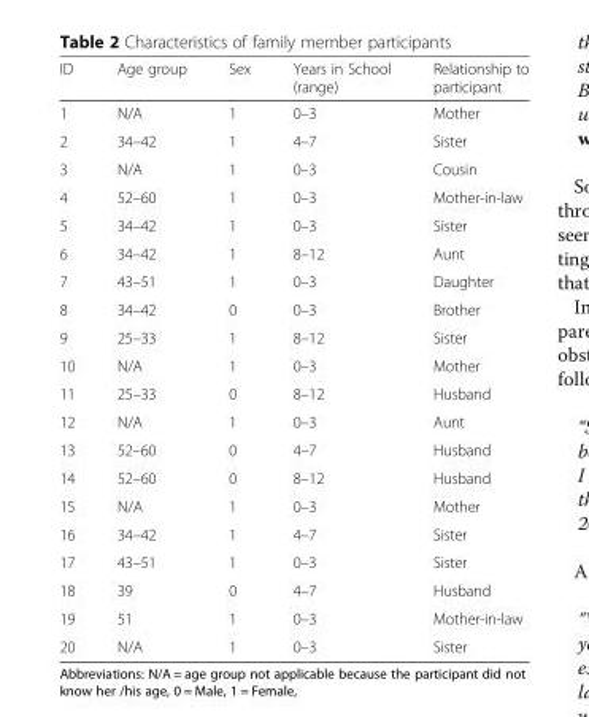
<table><thead><tr><td>ID</td><td>Age group</td><td>Sex</td><td>Years in School (range)</td><td>Relationship to participant</td></tr></thead><tbody><tr><td>1</td><td>N/A</td><td>1</td><td>0–3</td><td>Mother</td></tr><tr><td>2</td><td>34–42</td><td>1</td><td>4–7</td><td>Sister</td></tr><tr><td>3</td><td>N/A</td><td>1</td><td>0–3</td><td>Cousin</td></tr><tr><td>4</td><td>52–60</td><td>1</td><td>0–3</td><td>Mother-in-law</td></tr><tr><td>5</td><td>34–42</td><td>1</td><td>0–3</td><td>Sister</td></tr><tr><td>6</td><td>34–42</td><td>1</td><td>8–12</td><td>Aunt</td></tr><tr><td>7</td><td>43–51</td><td>1</td><td>0–3</td><td>Daughter</td></tr><tr><td>8</td><td>34–42</td><td>0</td><td>0–3</td><td>Brother</td></tr><tr><td>9</td><td>25–33</td><td>1</td><td>8–12</td><td>Sister</td></tr><tr><td>10</td><td>N/A</td><td>1</td><td>0–3</td><td>Mother</td></tr><tr><td>11</td><td>25–33</td><td>0</td><td>8–12</td><td>Husband</td></tr><tr><td>12</td><td>N/A</td><td>1</td><td>0–3</td><td>Aunt</td></tr><tr><td>13</td><td>52–60</td><td>0</td><td>4–7</td><td>Husband</td></tr><tr><td>14</td><td>52–60</td><td>0</td><td>8–12</td><td>Husband</td></tr><tr><td>15</td><td>N/A</td><td>1</td><td>0–3</td><td>Mother</td></tr><tr><td>16</td><td>34–42</td><td>1</td><td>4–7</td><td>Sister</td></tr><tr><td>17</td><td>43–51</td><td>1</td><td>0–3</td><td>Sister</td></tr><tr><td>18</td><td>39</td><td>0</td><td>4–7</td><td>Husband</td></tr><tr><td>19</td><td>51</td><td>1</td><td>0–3</td><td>Mother-in-law</td></tr><tr><td>20</td><td>N/A</td><td>1</td><td>0–3</td><td>Sister</td></tr></tbody></table>